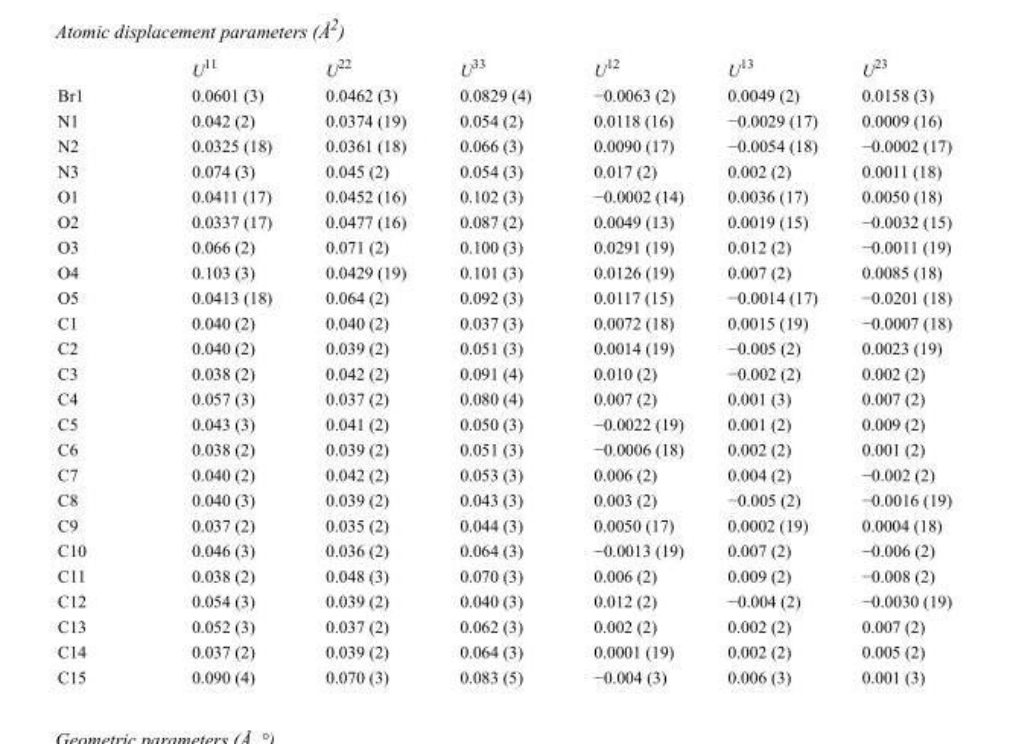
<table><thead><tr><td></td><td>U<sup>11</sup></td><td>U<sup>22</sup></td><td>U<sup>33</sup></td><td>U<sup>12</sup></td><td>U<sup>13</sup></td><td>U<sup>23</sup></td></tr></thead><tbody><tr><td>Br1</td><td>0.0601 (3)</td><td>0.0462 (3)</td><td>0.0829 (4)</td><td>−0.0063 (2)</td><td>0.0049 (2)</td><td>0.0158 (3)</td></tr><tr><td>N1</td><td>0.042 (2)</td><td>0.0374 (19)</td><td>0.054 (2)</td><td>0.0118 (16)</td><td>−0.0029 (17)</td><td>0.0009 (16)</td></tr><tr><td>N2</td><td>0.0325 (18)</td><td>0.0361 (18)</td><td>0.066 (3)</td><td>0.0090 (17)</td><td>−0.0054 (18)</td><td>−0.0002 (17)</td></tr><tr><td>N3</td><td>0.074 (3)</td><td>0.045 (2)</td><td>0.054 (3)</td><td>0.017 (2)</td><td>0.002 (2)</td><td>0.0011 (18)</td></tr><tr><td>O1</td><td>0.0411 (17)</td><td>0.0452 (16)</td><td>0.102 (3)</td><td>−0.0002 (14)</td><td>0.0036 (17)</td><td>0.0050 (18)</td></tr><tr><td>O2</td><td>0.0337 (17)</td><td>0.0477 (16)</td><td>0.087 (2)</td><td>0.0049 (13)</td><td>0.0019 (15)</td><td>−0.0032 (15)</td></tr><tr><td>O3</td><td>0.066 (2)</td><td>0.071 (2)</td><td>0.100 (3)</td><td>0.0291 (19)</td><td>0.012 (2)</td><td>−0.0011 (19)</td></tr><tr><td>O4</td><td>0.103 (3)</td><td>0.0429 (19)</td><td>0.101 (3)</td><td>0.0126 (19)</td><td>0.007 (2)</td><td>0.0085 (18)</td></tr><tr><td>O5</td><td>0.0413 (18)</td><td>0.064 (2)</td><td>0.092 (3)</td><td>0.0117 (15)</td><td>−0.0014 (17)</td><td>−0.0201 (18)</td></tr><tr><td>C1</td><td>0.040 (2)</td><td>0.040 (2)</td><td>0.037 (3)</td><td>0.0072 (18)</td><td>0.0015 (19)</td><td>−0.0007 (18)</td></tr><tr><td>C2</td><td>0.040 (2)</td><td>0.039 (2)</td><td>0.051 (3)</td><td>0.0014 (19)</td><td>−0.005 (2)</td><td>0.0023 (19)</td></tr><tr><td>C3</td><td>0.038 (2)</td><td>0.042 (2)</td><td>0.091 (4)</td><td>0.010 (2)</td><td>−0.002 (2)</td><td>0.002 (2)</td></tr><tr><td>C4</td><td>0.057 (3)</td><td>0.037 (2)</td><td>0.080 (4)</td><td>0.007 (2)</td><td>0.001 (3)</td><td>0.007 (2)</td></tr><tr><td>C5</td><td>0.043 (3)</td><td>0.041 (2)</td><td>0.050 (3)</td><td>−0.0022 (19)</td><td>0.001 (2)</td><td>0.009 (2)</td></tr><tr><td>C6</td><td>0.038 (2)</td><td>0.039 (2)</td><td>0.051 (3)</td><td>−0.0006 (18)</td><td>0.002 (2)</td><td>0.001 (2)</td></tr><tr><td>C7</td><td>0.040 (2)</td><td>0.042 (2)</td><td>0.053 (3)</td><td>0.006 (2)</td><td>0.004 (2)</td><td>−0.002 (2)</td></tr><tr><td>C8</td><td>0.040 (3)</td><td>0.039 (2)</td><td>0.043 (3)</td><td>0.003 (2)</td><td>−0.005 (2)</td><td>−0.0016 (19)</td></tr><tr><td>C9</td><td>0.037 (2)</td><td>0.035 (2)</td><td>0.044 (3)</td><td>0.0050 (17)</td><td>0.0002 (19)</td><td>0.0004 (18)</td></tr><tr><td>C10</td><td>0.046 (3)</td><td>0.036 (2)</td><td>0.064 (3)</td><td>−0.0013 (19)</td><td>0.007 (2)</td><td>−0.006 (2)</td></tr><tr><td>C11</td><td>0.038 (2)</td><td>0.048 (3)</td><td>0.070 (3)</td><td>0.006 (2)</td><td>0.009 (2)</td><td>−0.008 (2)</td></tr><tr><td>C12</td><td>0.054 (3)</td><td>0.039 (2)</td><td>0.040 (3)</td><td>0.012 (2)</td><td>−0.004 (2)</td><td>−0.0030 (19)</td></tr><tr><td>C13</td><td>0.052 (3)</td><td>0.037 (2)</td><td>0.062 (3)</td><td>0.002 (2)</td><td>0.002 (2)</td><td>0.007 (2)</td></tr><tr><td>C14</td><td>0.037 (2)</td><td>0.039 (2)</td><td>0.064 (3)</td><td>0.0001 (19)</td><td>0.002 (2)</td><td>0.005 (2)</td></tr><tr><td>C15</td><td>0.090 (4)</td><td>0.070 (3)</td><td>0.083 (5)</td><td>−0.004 (3)</td><td>0.006 (3)</td><td>0.001 (3)</td></tr></tbody></table>